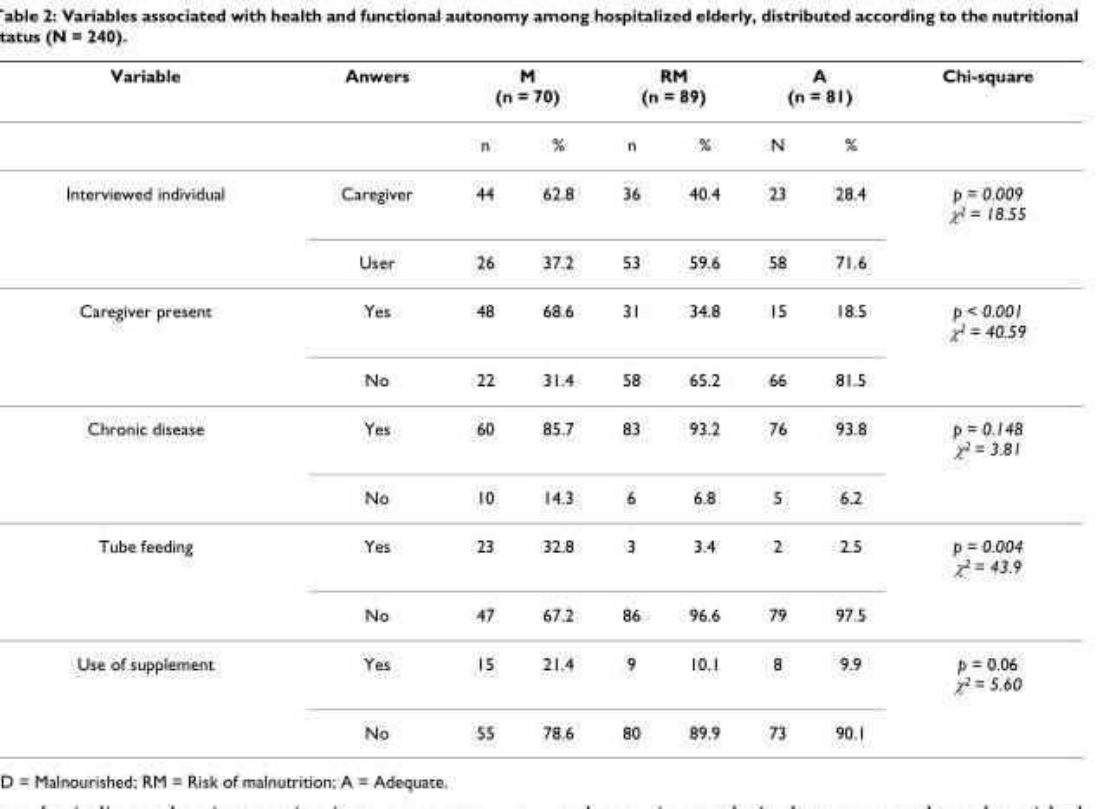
<table><thead><tr><td rowspan="2">Variable</td><td rowspan="2">Anwers</td><td colspan="2">M (n = 70)</td><td colspan="2">RM (n = 89)</td><td colspan="2">A (n = 81)</td><td rowspan="2">Chi-square</td></tr><tr><td>n</td><td>%</td><td>n</td><td>%</td><td>N</td><td>%</td></tr></thead><tbody><tr><td rowspan="2">Interviewed individual</td><td>Caregiver</td><td>44</td><td>62.8</td><td>36</td><td>40.4</td><td>23</td><td>28.4</td><td>p = 0.009 χ<sup>2</sup> = 18.55</td></tr><tr><td>User</td><td>26</td><td>37.2</td><td>53</td><td>59.6</td><td>58</td><td>71.6</td><td></td></tr><tr><td rowspan="2">Caregiver present</td><td>Yes</td><td>48</td><td>68.6</td><td>31</td><td>34.8</td><td>15</td><td>18.5</td><td>p &lt; 0.001 χ<sup>2</sup> = 40.59</td></tr><tr><td>No</td><td>22</td><td>31.4</td><td>58</td><td>65.2</td><td>66</td><td>81.5</td><td></td></tr><tr><td rowspan="2">Chronic disease</td><td>Yes</td><td>60</td><td>85.7</td><td>83</td><td>93.2</td><td>76</td><td>93.8</td><td>p = 0.148 χ<sup>2</sup> = 3.81</td></tr><tr><td>No</td><td>10</td><td>14.3</td><td>6</td><td>6.8</td><td>5</td><td>6.2</td><td></td></tr><tr><td rowspan="2">Tube feeding</td><td>Yes</td><td>23</td><td>32.8</td><td>3</td><td>3.4</td><td>2</td><td>2.5</td><td>p = 0.004 χ<sup>2</sup> = 43.9</td></tr><tr><td>No</td><td>47</td><td>67.2</td><td>86</td><td>96.6</td><td>79</td><td>97.5</td><td></td></tr><tr><td rowspan="2">Use of supplement</td><td>Yes</td><td>15</td><td>21.4</td><td>9</td><td>10.1</td><td>8</td><td>9.9</td><td>p = 0.06 χ<sup>2</sup> = 5.60</td></tr><tr><td>No</td><td>55</td><td>78.6</td><td>80</td><td>89.9</td><td>73</td><td>90.1</td><td></td></tr></tbody></table>